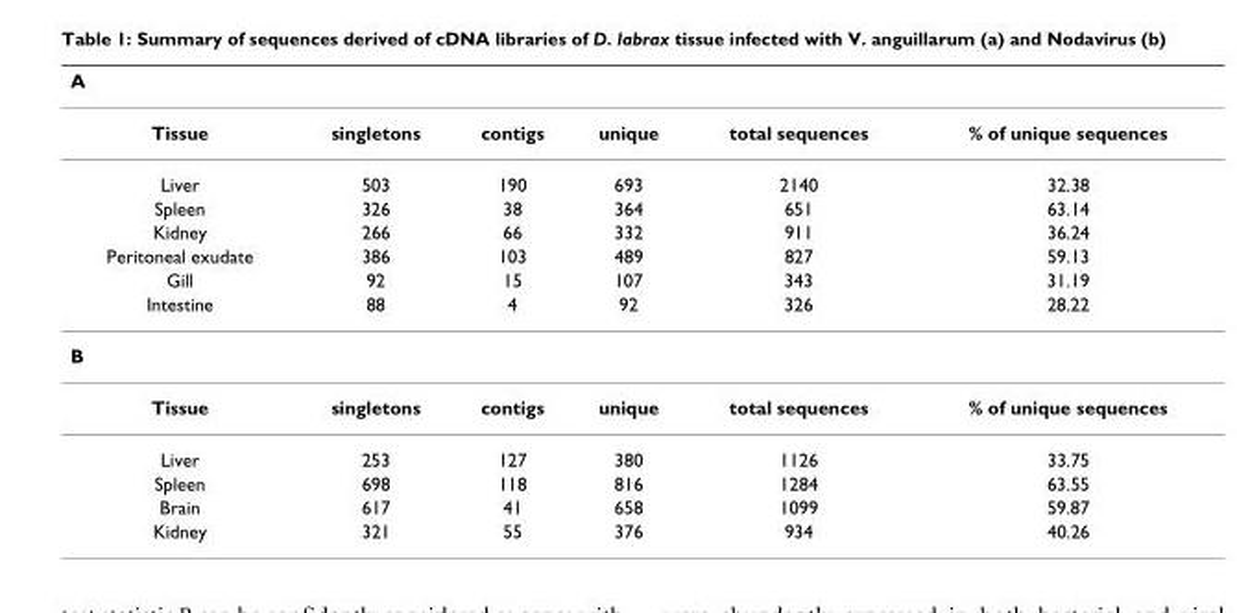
<table><thead><tr><td colspan="6">A</td></tr><tr><td>Tissue</td><td>singletons</td><td>contigs</td><td>unique</td><td>total sequences</td><td>% of unique sequences</td></tr></thead><tbody><tr><td>Liver</td><td>503</td><td>190</td><td>693</td><td>2140</td><td>32.38</td></tr><tr><td>Spleen</td><td>326</td><td>38</td><td>364</td><td>651</td><td>63.14</td></tr><tr><td>Kidney</td><td>266</td><td>66</td><td>332</td><td>911</td><td>36.24</td></tr><tr><td>Peritoneal exudate</td><td>386</td><td>103</td><td>489</td><td>827</td><td>59.13</td></tr><tr><td>Gill</td><td>92</td><td>15</td><td>107</td><td>343</td><td>31.19</td></tr><tr><td>Intestine</td><td>88</td><td>4</td><td>92</td><td>326</td><td>28.22</td></tr><tr><td colspan="6">B</td></tr><tr><td>Tissue</td><td>singletons</td><td>contigs</td><td>unique</td><td>total sequences</td><td>% of unique sequences</td></tr><tr><td>Liver</td><td>253</td><td>127</td><td>380</td><td>1126</td><td>33.75</td></tr><tr><td>Spleen</td><td>698</td><td>118</td><td>816</td><td>1284</td><td>63.55</td></tr><tr><td>Brain</td><td>617</td><td>41</td><td>658</td><td>1099</td><td>59.87</td></tr><tr><td>Kidney</td><td>321</td><td>55</td><td>376</td><td>934</td><td>40.26</td></tr></tbody></table>